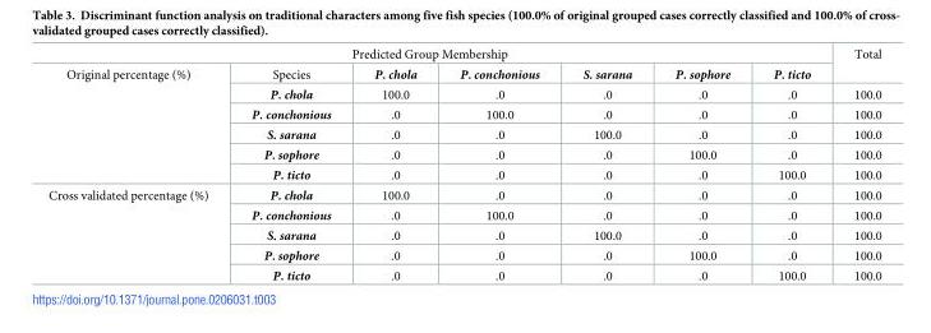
<table><tbody><tr><td colspan="7">Predicted Group Membership</td><td rowspan="2">Total</td></tr><tr><td rowspan="6">Original percentage (%)</td><td>Species</td><td>P. chola</td><td>P. conchonious</td><td>S. sarana</td><td>P. sophore</td><td>P. ticto</td></tr><tr><td>P. chola</td><td>100.0</td><td>.0</td><td>.0</td><td>.0</td><td>.0</td><td>100.0</td></tr><tr><td>P. conchonious</td><td>.0</td><td>100.0</td><td>.0</td><td>.0</td><td>.0</td><td>100.0</td></tr><tr><td>S. sarana</td><td>.0</td><td>.0</td><td>100.0</td><td>.0</td><td>.0</td><td>100.0</td></tr><tr><td>P. sophore</td><td>.0</td><td>.0</td><td>.0</td><td>100.0</td><td>.0</td><td>100.0</td></tr><tr><td>P. ticto</td><td>.0</td><td>.0</td><td>.0</td><td>.0</td><td>100.0</td><td>100.0</td></tr><tr><td rowspan="5">Cross validated percentage (%)</td><td>P. chola</td><td>100.0</td><td>.0</td><td>.0</td><td>.0</td><td>.0</td><td>100.0</td></tr><tr><td>P. conchonious</td><td>.0</td><td>100.0</td><td>.0</td><td>.0</td><td>.0</td><td>100.0</td></tr><tr><td>S. sarana</td><td>.0</td><td>.0</td><td>100.0</td><td>.0</td><td>.0</td><td>100.0</td></tr><tr><td>P. sophore</td><td>.0</td><td>.0</td><td>.0</td><td>100.0</td><td>.0</td><td>100.0</td></tr><tr><td>P. ticto</td><td>.0</td><td>.0</td><td>.0</td><td>.0</td><td>100.0</td><td>100.0</td></tr></tbody></table>